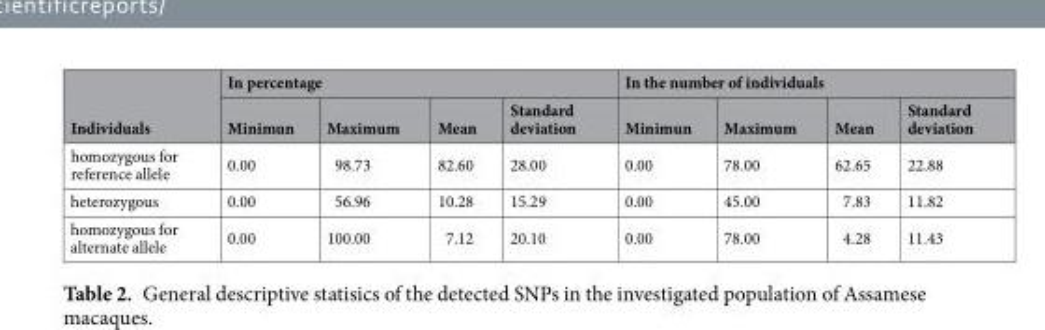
<table><thead><tr><td rowspan="2">Individuals</td><td colspan="4">In percentage</td><td colspan="4">In the number of individuals</td></tr><tr><td>Minimun</td><td>Maximum</td><td>Mean</td><td>Standard deviation</td><td>Minimun</td><td>Maximum</td><td>Mean</td><td>Standard deviation</td></tr></thead><tbody><tr><td>homozygous for reference allele</td><td>0.00</td><td>98.73</td><td>82.60</td><td>28.00</td><td>0.00</td><td>78.00</td><td>62.65</td><td>22.88</td></tr><tr><td>heterozygous</td><td>0.00</td><td>56.96</td><td>10.28</td><td>15.29</td><td>0.00</td><td>45.00</td><td>7.83</td><td>11.82</td></tr><tr><td>homozygous for alternate allele</td><td>0.00</td><td>100.00</td><td>7.12</td><td>20.10</td><td>0.00</td><td>78.00</td><td>4.28</td><td>11.43</td></tr></tbody></table>